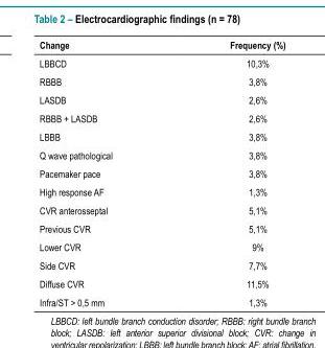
<table><thead><tr><td>Change</td><td>Frequency (%)</td></tr></thead><tbody><tr><td>LBBCD</td><td>10,3%</td></tr><tr><td>RBBB</td><td>3,8%</td></tr><tr><td>LASDB</td><td>2,6%</td></tr><tr><td>RBBB + LASDB</td><td>2,6%</td></tr><tr><td>LBBB</td><td>3,8%</td></tr><tr><td>Q wave pathological</td><td>3,8%</td></tr><tr><td>Pacemaker pace</td><td>3,8%</td></tr><tr><td>High response AF</td><td>1,3%</td></tr><tr><td>CVR anterosseptal</td><td>5,1%</td></tr><tr><td>Previous CVR</td><td>5,1%</td></tr><tr><td>Lower CVR</td><td>9%</td></tr><tr><td>Side CVR</td><td>7,7%</td></tr><tr><td>Diffuse CVR</td><td>11,5%</td></tr><tr><td>Infra/ST &gt; 0,5 mm</td><td>1,3%</td></tr></tbody></table>